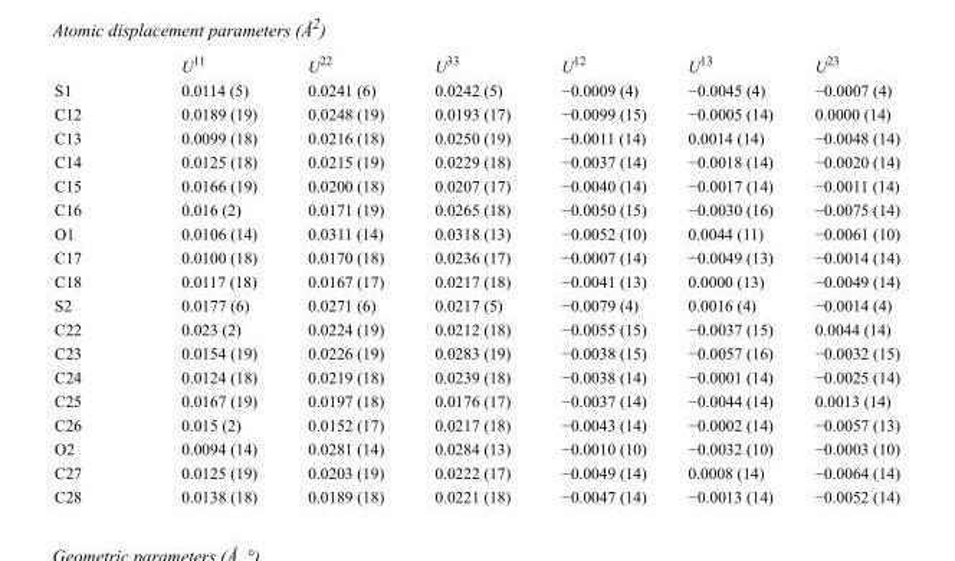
<table><thead><tr><td></td><td>U<sup>11</sup></td><td>U<sup>22</sup></td><td>U<sup>33</sup></td><td>U<sup>12</sup></td><td>U<sup>13</sup></td><td>U<sup>23</sup></td></tr></thead><tbody><tr><td>S1</td><td>0.0114 (5)</td><td>0.0241 (6)</td><td>0.0242 (5)</td><td>−0.0009 (4)</td><td>−0.0045 (4)</td><td>−0.0007 (4)</td></tr><tr><td>C12</td><td>0.0189 (19)</td><td>0.0248 (19)</td><td>0.0193 (17)</td><td>−0.0099 (15)</td><td>−0.0005 (14)</td><td>0.0000 (14)</td></tr><tr><td>C13</td><td>0.0099 (18)</td><td>0.0216 (18)</td><td>0.0250 (19)</td><td>−0.0011 (14)</td><td>0.0014 (14)</td><td>−0.0048 (14)</td></tr><tr><td>C14</td><td>0.0125 (18)</td><td>0.0215 (19)</td><td>0.0229 (18)</td><td>−0.0037 (14)</td><td>−0.0018 (14)</td><td>−0.0020 (14)</td></tr><tr><td>C15</td><td>0.0166 (19)</td><td>0.0200 (18)</td><td>0.0207 (17)</td><td>−0.0040 (14)</td><td>−0.0017 (14)</td><td>−0.0011 (14)</td></tr><tr><td>C16</td><td>0.016 (2)</td><td>0.0171 (19)</td><td>0.0265 (18)</td><td>−0.0050 (15)</td><td>−0.0030 (16)</td><td>−0.0075 (14)</td></tr><tr><td>O1</td><td>0.0106 (14)</td><td>0.0311 (14)</td><td>0.0318 (13)</td><td>−0.0052 (10)</td><td>0.0044 (11)</td><td>−0.0061 (10)</td></tr><tr><td>C17</td><td>0.0100 (18)</td><td>0.0170 (18)</td><td>0.0236 (17)</td><td>−0.0007 (14)</td><td>−0.0049 (13)</td><td>−0.0014 (14)</td></tr><tr><td>C18</td><td>0.0117 (18)</td><td>0.0167 (17)</td><td>0.0217 (18)</td><td>−0.0041 (13)</td><td>0.0000 (13)</td><td>−0.0049 (14)</td></tr><tr><td>S2</td><td>0.0177 (6)</td><td>0.0271 (6)</td><td>0.0217 (5)</td><td>−0.0079 (4)</td><td>0.0016 (4)</td><td>−0.0014 (4)</td></tr><tr><td>C22</td><td>0.023 (2)</td><td>0.0224 (19)</td><td>0.0212 (18)</td><td>−0.0055 (15)</td><td>−0.0037 (15)</td><td>0.0044 (14)</td></tr><tr><td>C23</td><td>0.0154 (19)</td><td>0.0226 (19)</td><td>0.0283 (19)</td><td>−0.0038 (15)</td><td>−0.0057 (16)</td><td>−0.0032 (15)</td></tr><tr><td>C24</td><td>0.0124 (18)</td><td>0.0219 (18)</td><td>0.0239 (18)</td><td>−0.0038 (14)</td><td>−0.0001 (14)</td><td>−0.0025 (14)</td></tr><tr><td>C25</td><td>0.0167 (19)</td><td>0.0197 (18)</td><td>0.0176 (17)</td><td>−0.0037 (14)</td><td>−0.0044 (14)</td><td>0.0013 (14)</td></tr><tr><td>C26</td><td>0.015 (2)</td><td>0.0152 (17)</td><td>0.0217 (18)</td><td>−0.0043 (14)</td><td>−0.0002 (14)</td><td>−0.0057 (13)</td></tr><tr><td>O2</td><td>0.0094 (14)</td><td>0.0281 (14)</td><td>0.0284 (13)</td><td>−0.0010 (10)</td><td>−0.0032 (10)</td><td>−0.0003 (10)</td></tr><tr><td>C27</td><td>0.0125 (19)</td><td>0.0203 (19)</td><td>0.0222 (17)</td><td>−0.0049 (14)</td><td>0.0008 (14)</td><td>−0.0064 (14)</td></tr><tr><td>C28</td><td>0.0138 (18)</td><td>0.0189 (18)</td><td>0.0221 (18)</td><td>−0.0047 (14)</td><td>−0.0013 (14)</td><td>−0.0052 (14)</td></tr></tbody></table>